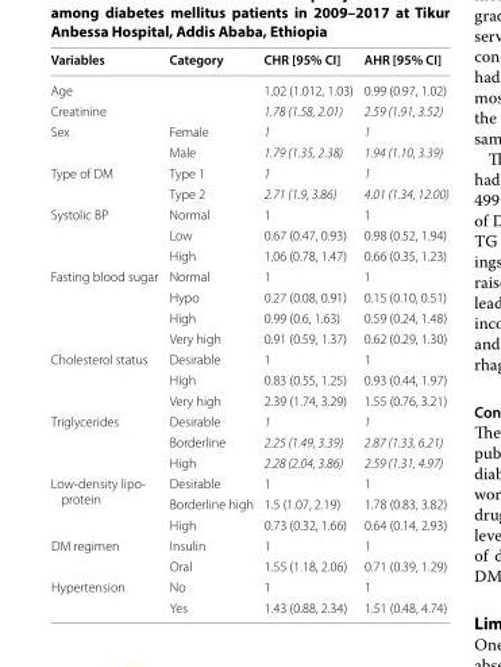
<table><thead><tr><td>Variables</td><td>Category</td><td>CHR [95% CI]</td><td>AHR [95% CI]</td></tr></thead><tbody><tr><td>Age</td><td></td><td>1.02 (1.012, 1.03)</td><td>0.99 (0.97, 1.02)</td></tr><tr><td>Creatinine</td><td></td><td>1.78 (1.58, 2.01)</td><td>2.59 (1.91, 3.52)</td></tr><tr><td rowspan="2">Sex</td><td>Female</td><td>1</td><td>1</td></tr><tr><td>Male</td><td>1.79 (1.35, 2.38)</td><td>1.94 (1.10, 3.39)</td></tr><tr><td rowspan="2">Type of DM</td><td>Type 1</td><td>1</td><td>1</td></tr><tr><td>Type 2</td><td>2.71 (1.9, 3.86)</td><td>4.01 (1.34, 12.00)</td></tr><tr><td rowspan="3">Systolic BP</td><td>Normal</td><td>1</td><td>1</td></tr><tr><td>Low</td><td>0.67 (0.47, 0.93)</td><td>0.98 (0.52, 1.94)</td></tr><tr><td>High</td><td>1.06 (0.78, 1.47)</td><td>0.66 (0.35, 1.23)</td></tr><tr><td rowspan="4">Fasting blood sugar</td><td>Normal</td><td>1</td><td>1</td></tr><tr><td>Hypo</td><td>0.27 (0.08, 0.91)</td><td>0.15 (0.10, 0.51)</td></tr><tr><td>High</td><td>0.99 (0.6, 1.63)</td><td>0.59 (0.24, 1.48)</td></tr><tr><td>Very high</td><td>0.91 (0.59, 1.37)</td><td>0.62 (0.29, 1.30)</td></tr><tr><td rowspan="3">Cholesterol status</td><td>Desirable</td><td>1</td><td>1</td></tr><tr><td>High</td><td>0.83 (0.55, 1.25)</td><td>0.93 (0.44, 1.97)</td></tr><tr><td>Very high</td><td>2.39 (1.74, 3.29)</td><td>1.55 (0.76, 3.21)</td></tr><tr><td rowspan="3">Triglycerides</td><td>Desirable</td><td>1</td><td>1</td></tr><tr><td>Borderline</td><td>2.25 (1.49, 3.39)</td><td>2.87 (1.33, 6.21)</td></tr><tr><td>High</td><td>2.28 (2.04, 3.86)</td><td>2.59 (1.31, 4.97)</td></tr><tr><td rowspan="3">Low-density lipo- protein</td><td>Desirable</td><td>1</td><td>1</td></tr><tr><td>Borderline high</td><td>1.5 (1.07, 2.19)</td><td>1.78 (0.83, 3.82)</td></tr><tr><td>High</td><td>0.73 (0.32, 1.66)</td><td>0.64 (0.14, 2.93)</td></tr><tr><td rowspan="2">DM regimen</td><td>Insulin</td><td>1</td><td>1</td></tr><tr><td>Oral</td><td>1.55 (1.18, 2.06)</td><td>0.71 (0.39, 1.29)</td></tr><tr><td rowspan="2">Hypertension</td><td>No</td><td>1</td><td>1</td></tr><tr><td>Yes</td><td>1.43 (0.88, 2.34)</td><td>1.51 (0.48, 4.74)</td></tr></tbody></table>